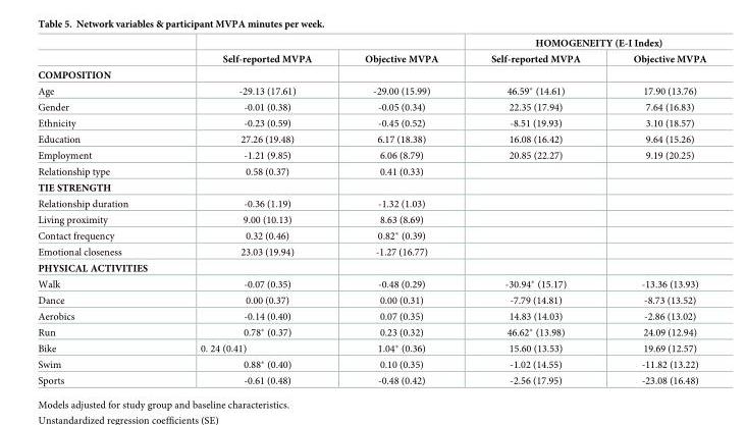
<table><thead><tr><td rowspan="2"></td><td rowspan="2">Self-reported MVPA</td><td rowspan="2">Objective MVPA</td><td colspan="2">HOMOGENEITY (E-I Index)</td></tr><tr><td>Self-reported MVPA</td><td>Objective MVPA</td></tr></thead><tbody><tr><td colspan="5">COMPOSITION</td></tr><tr><td>Age</td><td>-29.13 (17.61)</td><td>-29.00 (15.99)</td><td>46.59* (14.61)</td><td>17.90 (13.76)</td></tr><tr><td>Gender</td><td>-0.01 (0.38)</td><td>-0.05 (0.34)</td><td>22.35 (17.94)</td><td>7.64 (16.83)</td></tr><tr><td>Ethnicity</td><td>-0.23 (0.59)</td><td>-0.45 (0.52)</td><td>-8.51 (19.93)</td><td>3.10 (18.57)</td></tr><tr><td>Education</td><td>27.26 (19.48)</td><td>6.17 (18.38)</td><td>16.08 (16.42)</td><td>9.64 (15.26)</td></tr><tr><td>Employment</td><td>-1.21 (9.85)</td><td>6.06 (8.79)</td><td>20.85 (22.27)</td><td>9.19 (20.25)</td></tr><tr><td>Relationship type</td><td>0.58 (0.37)</td><td>0.41 (0.33)</td><td></td><td></td></tr><tr><td colspan="5">TIE STRENGTH</td></tr><tr><td>Relationship duration</td><td>-0.36 (1.19)</td><td>-1.32 (1.03)</td><td></td><td></td></tr><tr><td>Living proximity</td><td>9.00 (10.13)</td><td>8.63 (8.69)</td><td></td><td></td></tr><tr><td>Contact frequency</td><td>0.32 (0.46)</td><td>0.82* (0.39)</td><td></td><td></td></tr><tr><td>Emotional closeness</td><td>23.03 (19.94)</td><td>-1.27 (16.77)</td><td></td><td></td></tr><tr><td colspan="5">PHYSICAL ACTIVITIES</td></tr><tr><td>Walk</td><td>-0.07 (0.35)</td><td>-0.48 (0.29)</td><td>-30.94* (15.17)</td><td>-13.36 (13.93)</td></tr><tr><td>Dance</td><td>0.00 (0.37)</td><td>0.00 (0.31)</td><td>-7.79 (14.81)</td><td>-8.73 (13.52)</td></tr><tr><td>Aerobics</td><td>-0.14 (0.40)</td><td>0.07 (0.35)</td><td>14.83 (14.03)</td><td>-2.86 (13.02)</td></tr><tr><td>Run</td><td>0.78* (0.37)</td><td>0.23 (0.32)</td><td>46.62* (13.98)</td><td>24.09 (12.94)</td></tr><tr><td>Bike</td><td>0. 24 (0.41)</td><td>1.04* (0.36)</td><td>15.60 (13.53)</td><td>19.69 (12.57)</td></tr><tr><td>Swim</td><td>0.88* (0.40)</td><td>0.10 (0.35)</td><td>-1.02 (14.55)</td><td>-11.82 (13.22)</td></tr><tr><td>Sports</td><td>-0.61 (0.48)</td><td>-0.48 (0.42)</td><td>-2.56 (17.95)</td><td>-23.08 (16.48)</td></tr></tbody></table>